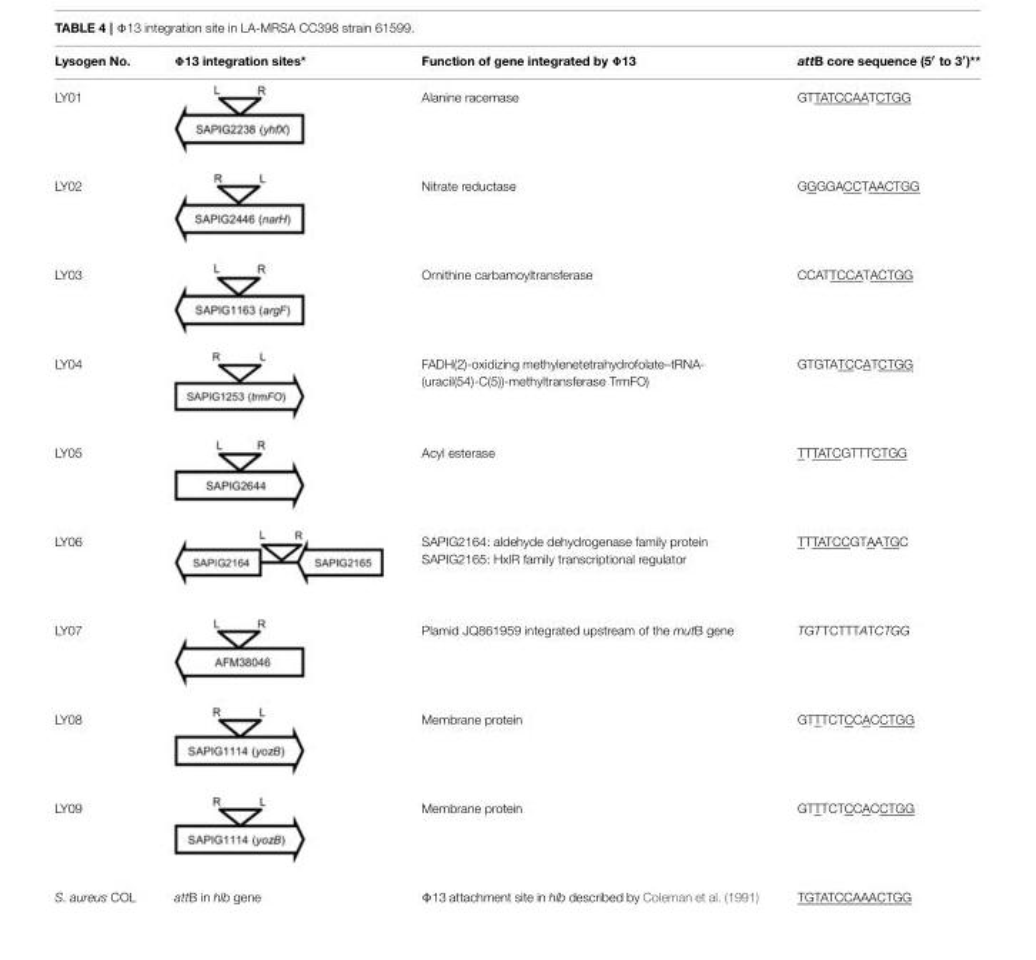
<table><thead><tr><td>Lysogen No.</td><td>Φ13 integration sites*</td><td>Function of gene integrated by Φ13</td><td>attB core sequence (5′ to 3′)**</td></tr></thead><tbody><tr><td>LY01</td><td></td><td>Alanine racemase</td><td>GTTATCCAATCTGG</td></tr><tr><td>LY02</td><td></td><td>Nitrate reductase</td><td>GGGGACCTAACTGG</td></tr><tr><td>LY03</td><td></td><td>Ornithine carbamoyltransferase</td><td>CCATTCCATACTGG</td></tr><tr><td>LY04</td><td></td><td>FADH(2)-oxidizing methylenetetrahydrofolate–tRNA- (uracil(54)-C(5))-methyltransferase TrmFO)</td><td>GTGTATCCATCTGG</td></tr><tr><td>LY05</td><td></td><td>Acyl esterase</td><td>TTTATCGTTTCTGG</td></tr><tr><td>LY06</td><td></td><td>SAPIG2164: aldehyde dehydrogenase family protein SAPIG2165: HxlR family transcriptional regulator</td><td>TTTATCCGTAATGC</td></tr><tr><td>LY07</td><td></td><td>Plamid JQ861959 integrated upstream of the mutB gene</td><td>TGTTCTTTATCTGG</td></tr><tr><td>LY08</td><td></td><td>Membrane protein</td><td>GTTTCTCCACCTGG</td></tr><tr><td>LY09</td><td></td><td>Membrane protein</td><td>GTTTCTCCACCTGG</td></tr><tr><td>S. aureus COL</td><td>attB in hlb gene</td><td>Φ13 attachment site in hlb described by Coleman et al. (1991)</td><td>TGTATCCAAACTGG</td></tr></tbody></table>